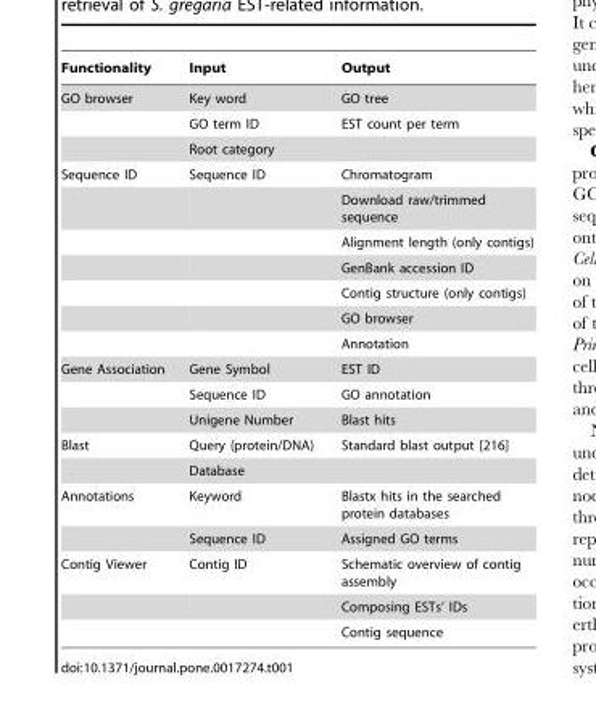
<table><thead><tr><td>Functionality</td><td>Input</td><td>Output</td></tr></thead><tbody><tr><td rowspan="3">GO browser</td><td>Key word</td><td>GO tree</td></tr><tr><td>GO term ID</td><td>EST count per term</td></tr><tr><td>Root category</td><td></td></tr><tr><td rowspan="7">Sequence ID</td><td>Sequence ID</td><td>Chromatogram</td></tr><tr><td></td><td>Download raw/trimmed sequence</td></tr><tr><td></td><td>Alignment length (only contigs)</td></tr><tr><td></td><td>GenBank accession ID</td></tr><tr><td></td><td>Contig structure (only contigs)</td></tr><tr><td></td><td>GO browser</td></tr><tr><td></td><td>Annotation</td></tr><tr><td rowspan="3">Gene Association</td><td>Gene Symbol</td><td>EST ID</td></tr><tr><td>Sequence ID</td><td>GO annotation</td></tr><tr><td>Unigene Number</td><td>Blast hits</td></tr><tr><td rowspan="2">Blast</td><td>Query (protein/DNA)</td><td>Standard blast output [216]</td></tr><tr><td>Database</td><td></td></tr><tr><td rowspan="2">Annotations</td><td>Keyword</td><td>Blastx hits in the searched protein databases</td></tr><tr><td>Sequence ID</td><td>Assigned GO terms</td></tr><tr><td rowspan="3">Contig Viewer</td><td>Contig ID</td><td>Schematic overview of contig assembly</td></tr><tr><td></td><td>Composing ESTs’ IDs</td></tr><tr><td></td><td>Contig sequence</td></tr></tbody></table>